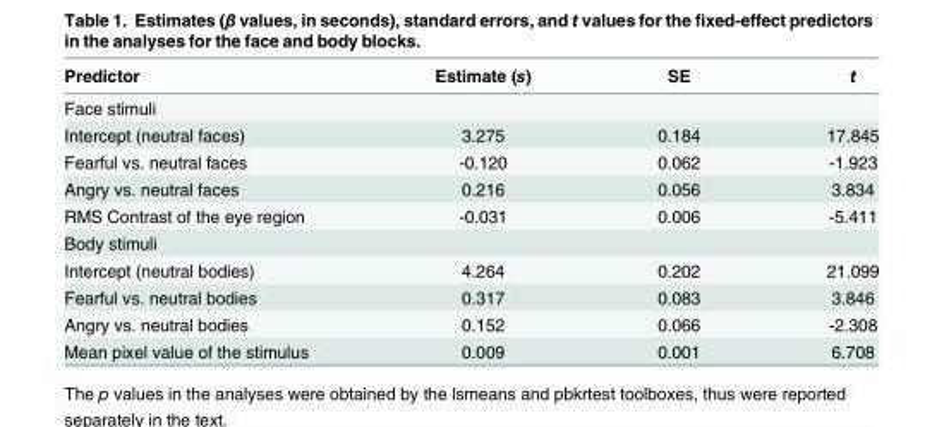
<table><thead><tr><td>Predictor</td><td>Estimate (s)</td><td>SE</td><td>t</td></tr></thead><tbody><tr><td colspan="4">Face stimuli</td></tr><tr><td>Intercept (neutral faces)</td><td>3.275</td><td>0.184</td><td>17.845</td></tr><tr><td>Fearful vs. neutral faces</td><td>-0.120</td><td>0.062</td><td>-1.923</td></tr><tr><td>Angry vs. neutral faces</td><td>0.216</td><td>0.056</td><td>3.834</td></tr><tr><td>RMS Contrast of the eye region</td><td>-0.031</td><td>0.006</td><td>-5.411</td></tr><tr><td colspan="4">Body stimuli</td></tr><tr><td>Intercept (neutral bodies)</td><td>4.264</td><td>0.202</td><td>21.099</td></tr><tr><td>Fearful vs. neutral bodies</td><td>0.317</td><td>0.083</td><td>3.846</td></tr><tr><td>Angry vs. neutral bodies</td><td>0.152</td><td>0.066</td><td>-2.308</td></tr><tr><td>Mean pixel value of the stimulus</td><td>0.009</td><td>0.001</td><td>6.708</td></tr></tbody></table>